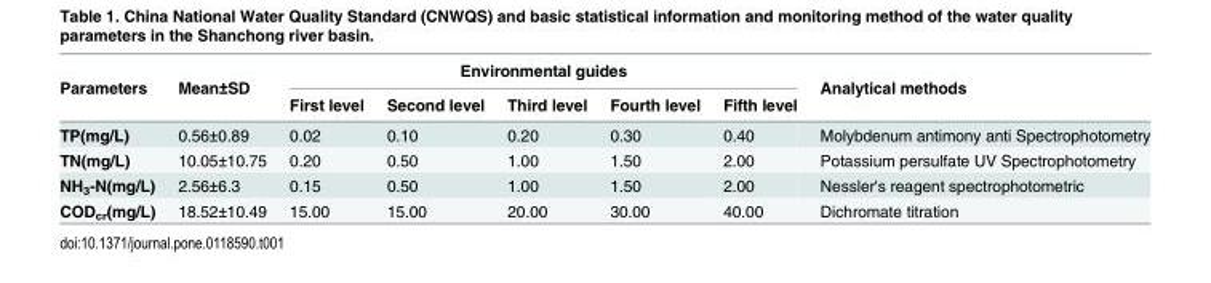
<table><thead><tr><td rowspan="2">Parameters</td><td rowspan="2">Mean±SD</td><td colspan="5">Environmental guides</td><td rowspan="2">Analytical methods</td></tr><tr><td>First level</td><td>Second level</td><td>Third level</td><td>Fourth level</td><td>Fifth level</td></tr></thead><tbody><tr><td>TP(mg/L)</td><td>0.56±0.89</td><td>0.02</td><td>0.10</td><td>0.20</td><td>0.30</td><td>0.40</td><td>Molybdenum antimony anti Spectrophotometry</td></tr><tr><td>TN(mg/L)</td><td>10.05±10.75</td><td>0.20</td><td>0.50</td><td>1.00</td><td>1.50</td><td>2.00</td><td>Potassium persulfate UV Spectrophotometry</td></tr><tr><td>NH<sub>3</sub>-N(mg/L)</td><td>2.56±6.3</td><td>0.15</td><td>0.50</td><td>1.00</td><td>1.50</td><td>2.00</td><td>Nessler&#x27;s reagent spectrophotometric</td></tr><tr><td>COD<sub>cr</sub>(mg/L)</td><td>18.52±10.49</td><td>15.00</td><td>15.00</td><td>20.00</td><td>30.00</td><td>40.00</td><td>Dichromate titration</td></tr></tbody></table>